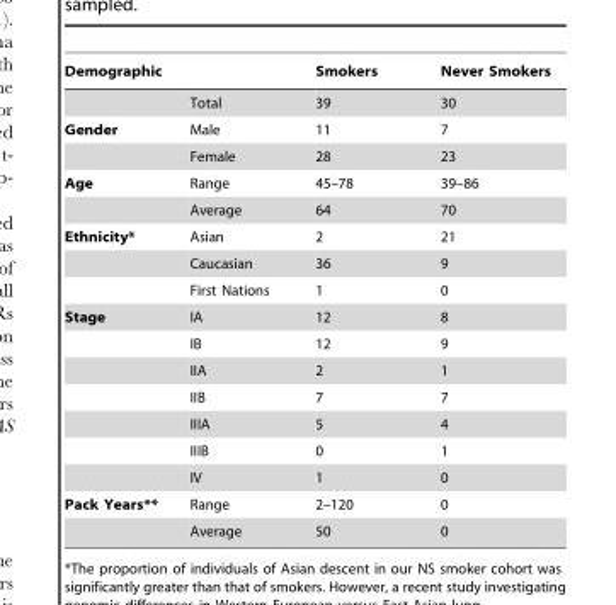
<table><thead><tr><td colspan="2">Demographic</td><td rowspan="2">Smokers 39</td><td rowspan="2">Never Smokers 30</td></tr><tr><td></td><td>Total</td></tr></thead><tbody><tr><td rowspan="2">Gender</td><td>Male</td><td>11</td><td>7</td></tr><tr><td>Female</td><td>28</td><td>23</td></tr><tr><td rowspan="2">Age</td><td>Range</td><td>45–78</td><td>39–86</td></tr><tr><td>Average</td><td>64</td><td>70</td></tr><tr><td rowspan="3">Ethnicity*</td><td>Asian</td><td>2</td><td>21</td></tr><tr><td>Caucasian</td><td>36</td><td>9</td></tr><tr><td>First Nations</td><td>1</td><td>0</td></tr><tr><td rowspan="7">Stage</td><td>IA</td><td>12</td><td>8</td></tr><tr><td>IB</td><td>12</td><td>9</td></tr><tr><td>IIA</td><td>2</td><td>1</td></tr><tr><td>IIB</td><td>7</td><td>7</td></tr><tr><td>IIIA</td><td>5</td><td>4</td></tr><tr><td>IIIB</td><td>0</td><td>1</td></tr><tr><td>IV</td><td>1</td><td>0</td></tr><tr><td rowspan="2">Pack Years**</td><td>Range</td><td>2–120</td><td>0</td></tr><tr><td>Average</td><td>50</td><td>0</td></tr></tbody></table>